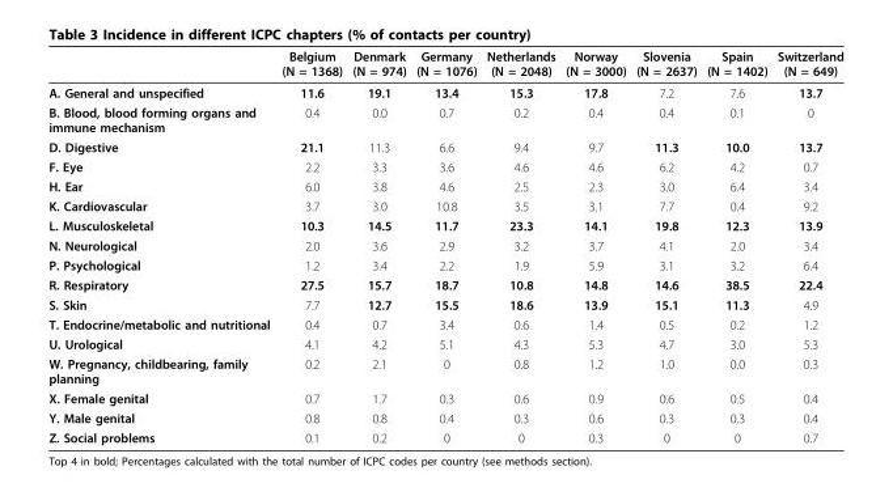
<table><thead><tr><td></td><td>Belgium (N = 1368)</td><td>Denmark (N = 974)</td><td>Germany (N = 1076)</td><td>Netherlands (N = 2048)</td><td>Norway (N = 3000)</td><td>Slovenia (N = 2637)</td><td>Spain (N = 1402)</td><td>Switzerland (N = 649)</td></tr></thead><tbody><tr><td>A. General and unspecified</td><td>11.6</td><td>19.1</td><td>13.4</td><td>15.3</td><td>17.8</td><td>7.2</td><td>7.6</td><td>13.7</td></tr><tr><td>B. Blood, blood forming organs and immune mechanism</td><td>0.4</td><td>0.0</td><td>0.7</td><td>0.2</td><td>0.4</td><td>0.4</td><td>0.1</td><td>0</td></tr><tr><td>D. Digestive</td><td>21.1</td><td>11.3</td><td>6.6</td><td>9.4</td><td>9.7</td><td>11.3</td><td>10.0</td><td>13.7</td></tr><tr><td>F. Eye</td><td>2.2</td><td>3.3</td><td>3.6</td><td>4.6</td><td>4.6</td><td>6.2</td><td>4.2</td><td>0.7</td></tr><tr><td>H. Ear</td><td>6.0</td><td>3.8</td><td>4.6</td><td>2.5</td><td>2.3</td><td>3.0</td><td>6.4</td><td>3.4</td></tr><tr><td>K. Cardiovascular</td><td>3.7</td><td>3.0</td><td>10.8</td><td>3.5</td><td>3.1</td><td>7.7</td><td>0.4</td><td>9.2</td></tr><tr><td>L. Musculoskeletal</td><td>10.3</td><td>14.5</td><td>11.7</td><td>23.3</td><td>14.1</td><td>19.8</td><td>12.3</td><td>13.9</td></tr><tr><td>N. Neurological</td><td>2.0</td><td>3.6</td><td>2.9</td><td>3.2</td><td>3.7</td><td>4.1</td><td>2.0</td><td>3.4</td></tr><tr><td>P. Psychological</td><td>1.2</td><td>3.4</td><td>2.2</td><td>1.9</td><td>5.9</td><td>3.1</td><td>3.2</td><td>6.4</td></tr><tr><td>R. Respiratory</td><td>27.5</td><td>15.7</td><td>18.7</td><td>10.8</td><td>14.8</td><td>14.6</td><td>38.5</td><td>22.4</td></tr><tr><td>S. Skin</td><td>7.7</td><td>12.7</td><td>15.5</td><td>18.6</td><td>13.9</td><td>15.1</td><td>11.3</td><td>4.9</td></tr><tr><td>T. Endocrine/metabolic and nutritional</td><td>0.4</td><td>0.7</td><td>3.4</td><td>0.6</td><td>1.4</td><td>0.5</td><td>0.2</td><td>1.2</td></tr><tr><td>U. Urological</td><td>4.1</td><td>4.2</td><td>5.1</td><td>4.3</td><td>5.3</td><td>4.7</td><td>3.0</td><td>5.3</td></tr><tr><td>W. Pregnancy, childbearing, family planning</td><td>0.2</td><td>2.1</td><td>0</td><td>0.8</td><td>1.2</td><td>1.0</td><td>0.0</td><td>0.3</td></tr><tr><td>X. Female genital</td><td>0.7</td><td>1.7</td><td>0.3</td><td>0.6</td><td>0.9</td><td>0.6</td><td>0.5</td><td>0.4</td></tr><tr><td>Y. Male genital</td><td>0.8</td><td>0.8</td><td>0.4</td><td>0.3</td><td>0.6</td><td>0.3</td><td>0.3</td><td>0.4</td></tr><tr><td>Z. Social problems</td><td>0.1</td><td>0.2</td><td>0</td><td>0</td><td>0.3</td><td>0</td><td>0</td><td>0.7</td></tr></tbody></table>